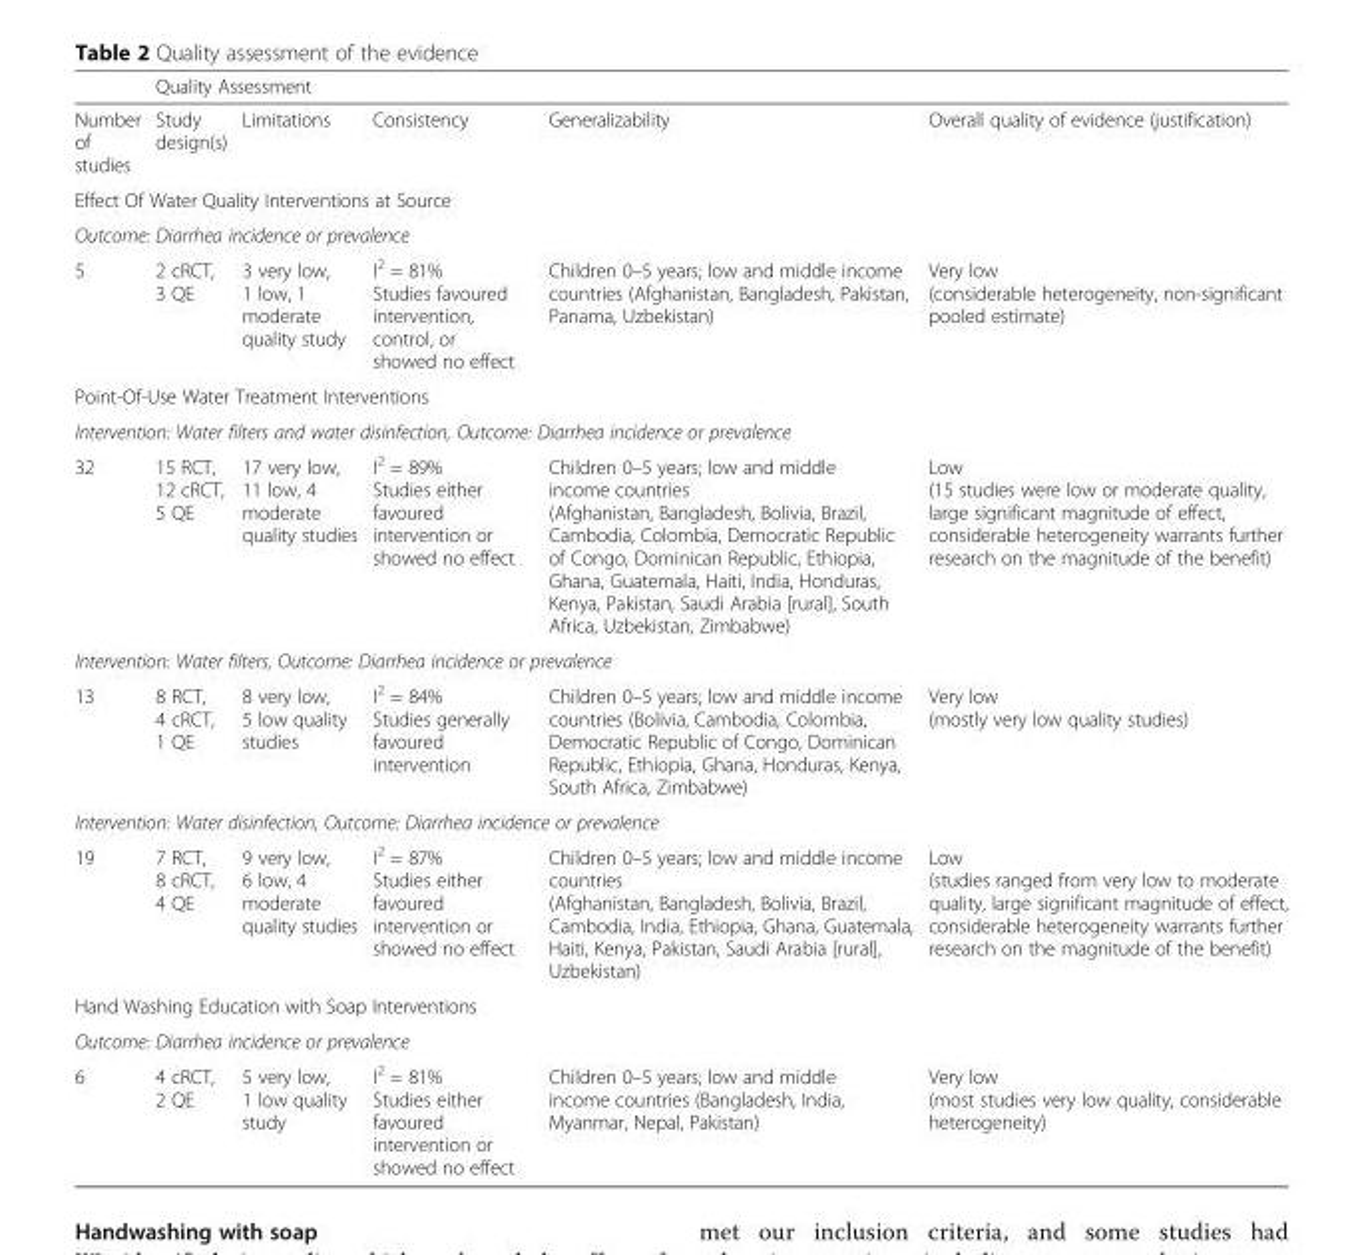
<table><thead><tr><td rowspan="2">Number of studies</td><td colspan="5">Quality Assessment</td></tr><tr><td>Study design(s)</td><td>Limitations</td><td>Consistency</td><td>Generalizability</td><td>Overall quality of evidence (justification)</td></tr></thead><tbody><tr><td colspan="6">Effect Of Water Quality Interventions at Source</td></tr><tr><td colspan="6">Outcome: Diarrhea incidence or prevalence</td></tr><tr><td>5</td><td>2 cRCT, 3 QE</td><td>3 very low, 1 low, 1 moderate quality study</td><td>I<sup>2</sup> = 81% Studies favoured intervention, control, or showed no effect</td><td>Children 0–5 years; low and middle income countries (Afghanistan, Bangladesh, Pakistan, Panama, Uzbekistan)</td><td>Very low (considerable heterogeneity, non-significant pooled estimate)</td></tr><tr><td colspan="6">Point-Of-Use Water Treatment Interventions</td></tr><tr><td colspan="6">Intervention: Water filters and water disinfection, Outcome: Diarrhea incidence or prevalence</td></tr><tr><td>32</td><td>15 RCT, 12 cRCT, 5 QE</td><td>17 very low, 11 low, 4 moderate quality studies</td><td>I<sup>2</sup> = 89% Studies either favoured intervention or showed no effect</td><td>Children 0–5 years; low and middle income countries (Afghanistan, Bangladesh, Bolivia, Brazil, Cambodia, Colombia, Democratic Republic of Congo, Dominican Republic, Ethiopia, Ghana, Guatemala, Haiti, India, Honduras, Kenya, Pakistan, Saudi Arabia [rural], South Africa, Uzbekistan, Zimbabwe)</td><td>Low (15 studies were low or moderate quality, large significant magnitude of effect, considerable heterogeneity warrants further research on the magnitude of the benefit)</td></tr><tr><td colspan="6">Intervention: Water filters, Outcome: Diarrhea incidence or prevalence</td></tr><tr><td>13</td><td>8 RCT, 4 cRCT, 1 QE</td><td>8 very low, 5 low quality studies</td><td>I<sup>2</sup> = 84% Studies generally favoured intervention</td><td>Children 0–5 years; low and middle income countries (Bolivia, Cambodia, Colombia, Democratic Republic of Congo, Dominican Republic, Ethiopia, Ghana, Honduras, Kenya, South Africa, Zimbabwe)</td><td>Very low (mostly very low quality studies)</td></tr><tr><td colspan="6">Intervention: Water disinfection, Outcome: Diarrhea incidence or prevalence</td></tr><tr><td>19</td><td>7 RCT, 8 cRCT, 4 QE</td><td>9 very low, 6 low, 4 moderate quality studies</td><td>I<sup>2</sup> = 87% Studies either favoured intervention or showed no effect</td><td>Children 0–5 years; low and middle income countries (Afghanistan, Bangladesh, Bolivia, Brazil, Cambodia, India, Ethiopia, Ghana, Guatemala, Haiti, Kenya, Pakistan, Saudi Arabia [rural], Uzbekistan)</td><td>Low (studies ranged from very low to moderate quality, large significant magnitude of effect, considerable heterogeneity warrants further research on the magnitude of the benefit)</td></tr><tr><td colspan="6">Hand Washing Education with Soap Interventions</td></tr><tr><td colspan="6">Outcome: Diarrhea incidence or prevalence</td></tr><tr><td>6</td><td>4 cRCT, 2 QE</td><td>5 very low, 1 low quality study</td><td>I<sup>2</sup> = 81% Studies either favoured intervention or showed no effect</td><td>Children 0–5 years; low and middle income countries (Bangladesh, India, Myanmar, Nepal, Pakistan)</td><td>Very low (most studies very low quality, considerable heterogeneity)</td></tr></tbody></table>